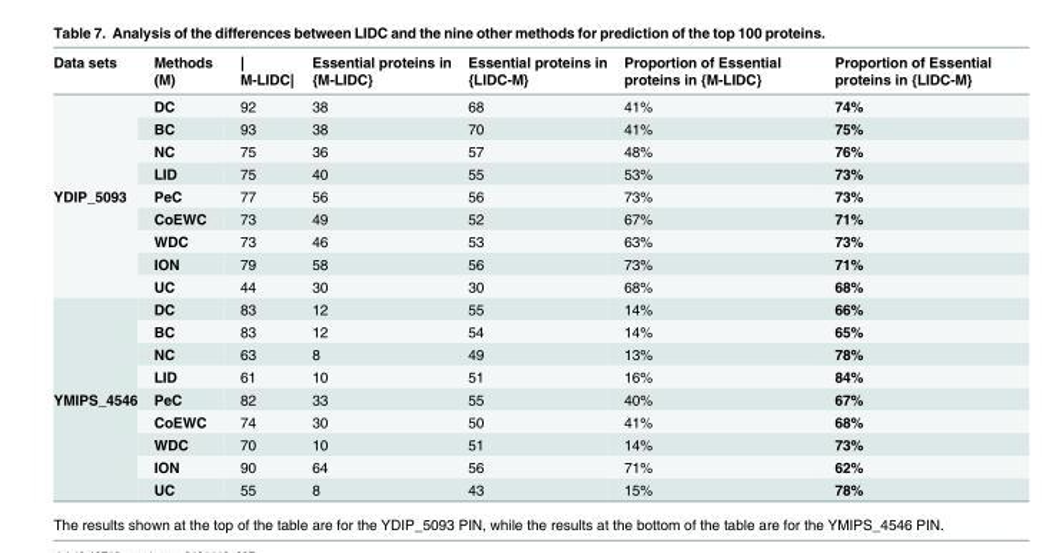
<table><thead><tr><td>Data sets</td><td>Methods (M)</td><td>| M-LIDC|</td><td>Essential proteins in {M-LIDC}</td><td>Essential proteins in {LIDC-M}</td><td>Proportion of Essential proteins in {M-LIDC}</td><td>Proportion of Essential proteins in {LIDC-M}</td></tr></thead><tbody><tr><td rowspan="9">YDIP_5093</td><td>DC</td><td>92</td><td>38</td><td>68</td><td>41%</td><td>74%</td></tr><tr><td>BC</td><td>93</td><td>38</td><td>70</td><td>41%</td><td>75%</td></tr><tr><td>NC</td><td>75</td><td>36</td><td>57</td><td>48%</td><td>76%</td></tr><tr><td>LID</td><td>75</td><td>40</td><td>55</td><td>53%</td><td>73%</td></tr><tr><td>PeC</td><td>77</td><td>56</td><td>56</td><td>73%</td><td>73%</td></tr><tr><td>CoEWC</td><td>73</td><td>49</td><td>52</td><td>67%</td><td>71%</td></tr><tr><td>WDC</td><td>73</td><td>46</td><td>53</td><td>63%</td><td>73%</td></tr><tr><td>ION</td><td>79</td><td>58</td><td>56</td><td>73%</td><td>71%</td></tr><tr><td>UC</td><td>44</td><td>30</td><td>30</td><td>68%</td><td>68%</td></tr><tr><td rowspan="9">YMIPS_4546</td><td>DC</td><td>83</td><td>12</td><td>55</td><td>14%</td><td>66%</td></tr><tr><td>BC</td><td>83</td><td>12</td><td>54</td><td>14%</td><td>65%</td></tr><tr><td>NC</td><td>63</td><td>8</td><td>49</td><td>13%</td><td>78%</td></tr><tr><td>LID</td><td>61</td><td>10</td><td>51</td><td>16%</td><td>84%</td></tr><tr><td>PeC</td><td>82</td><td>33</td><td>55</td><td>40%</td><td>67%</td></tr><tr><td>CoEWC</td><td>74</td><td>30</td><td>50</td><td>41%</td><td>68%</td></tr><tr><td>WDC</td><td>70</td><td>10</td><td>51</td><td>14%</td><td>73%</td></tr><tr><td>ION</td><td>90</td><td>64</td><td>56</td><td>71%</td><td>62%</td></tr><tr><td>UC</td><td>55</td><td>8</td><td>43</td><td>15%</td><td>78%</td></tr></tbody></table>